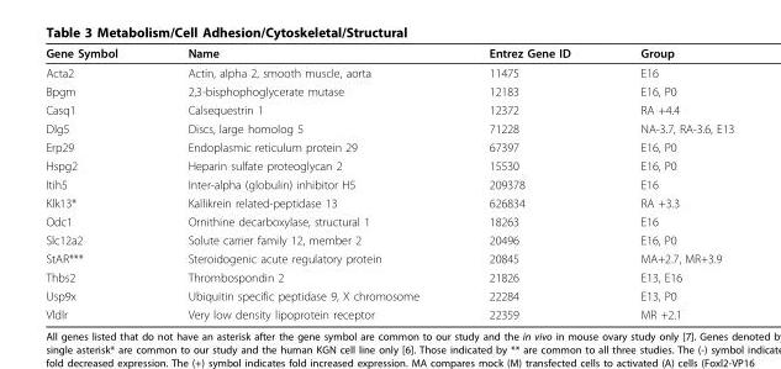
<table><thead><tr><td>Gene Symbol</td><td>Name</td><td>Entrez Gene ID</td><td>Group</td></tr></thead><tbody><tr><td>Acta2</td><td>Actin, alpha 2, smooth muscle, aorta</td><td>11475</td><td>E16</td></tr><tr><td>Bpgm</td><td>2,3-bisphophoglycerate mutase</td><td>12183</td><td>E16, P0</td></tr><tr><td>Casq1</td><td>Calsequestrin 1</td><td>12372</td><td>RA +4.4</td></tr><tr><td>Dlg5</td><td>Discs, large homolog 5</td><td>71228</td><td>NA-3.7, RA-3.6, E13</td></tr><tr><td>Erp29</td><td>Endoplasmic reticulum protein 29</td><td>67397</td><td>E16, P0</td></tr><tr><td>Hspg2</td><td>Heparin sulfate proteoglycan 2</td><td>15530</td><td>E16, P0</td></tr><tr><td>Itih5</td><td>Inter-alpha (globulin) inhibitor H5</td><td>209378</td><td>E16</td></tr><tr><td>Klk13*</td><td>Kallikrein related-peptidase 13</td><td>626834</td><td>RA +3.3</td></tr><tr><td>Odc1</td><td>Ornithine decarboxylase, structural 1</td><td>18263</td><td>E16</td></tr><tr><td>Slc12a2</td><td>Solute carrier family 12, member 2</td><td>20496</td><td>E16, P0</td></tr><tr><td>StAR***</td><td>Steroidogenic acute regulatory protein</td><td>20845</td><td>MA+2.7, MR+3.9</td></tr><tr><td>Thbs2</td><td>Thrombospondin 2</td><td>21826</td><td>E13, E16</td></tr><tr><td>Usp9x</td><td>Ubiquitin specific peptidase 9, X chromosome</td><td>22284</td><td>E13, P0</td></tr><tr><td>Vldlr</td><td>Very low density lipoprotein receptor</td><td>22359</td><td>MR +2.1</td></tr></tbody></table>